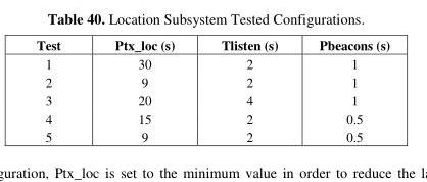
<table><thead><tr><td>Test</td><td>Ptx_loc (s)</td><td>Tlisten (s)</td><td>Pbeacons (s)</td></tr></thead><tbody><tr><td>1</td><td>30</td><td>2</td><td>1</td></tr><tr><td>2</td><td>9</td><td>2</td><td>1</td></tr><tr><td>3</td><td>20</td><td>4</td><td>1</td></tr><tr><td>4</td><td>15</td><td>2</td><td>0.5</td></tr><tr><td>5</td><td>9</td><td>2</td><td>0.5</td></tr></tbody></table>